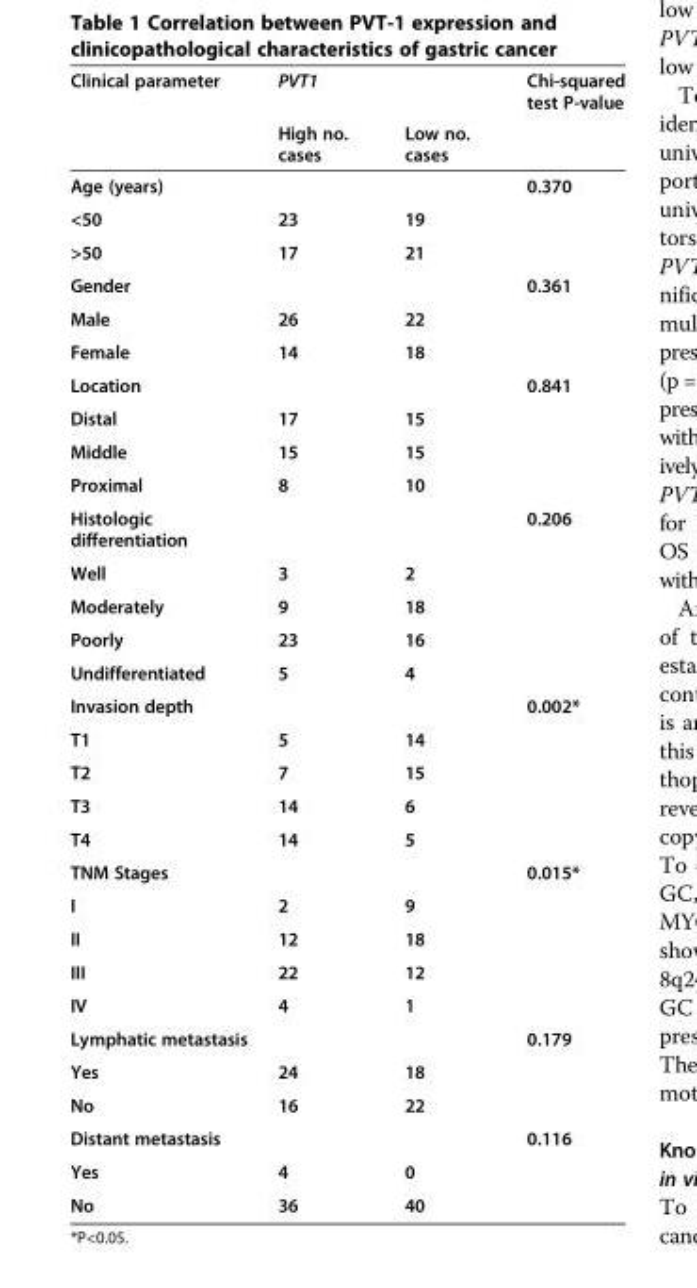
<table><thead><tr><td rowspan="2">Clinical parameter</td><td rowspan="2">PVT1 High no. cases</td><td rowspan="2">Low no. cases</td><td rowspan="2">Chi-squared test P-value</td></tr><tr></tr></thead><tbody><tr><td>Age (years)</td><td></td><td></td><td>0.370</td></tr><tr><td>&lt;50</td><td>23</td><td>19</td><td></td></tr><tr><td>&gt;50</td><td>17</td><td>21</td><td></td></tr><tr><td>Gender</td><td></td><td></td><td>0.361</td></tr><tr><td>Male</td><td>26</td><td>22</td><td></td></tr><tr><td>Female</td><td>14</td><td>18</td><td></td></tr><tr><td>Location</td><td></td><td></td><td>0.841</td></tr><tr><td>Distal</td><td>17</td><td>15</td><td></td></tr><tr><td>Middle</td><td>15</td><td>15</td><td></td></tr><tr><td>Proximal</td><td>8</td><td>10</td><td></td></tr><tr><td>Histologic differentiation</td><td></td><td></td><td>0.206</td></tr><tr><td>Well</td><td>3</td><td>2</td><td></td></tr><tr><td>Moderately</td><td>9</td><td>18</td><td></td></tr><tr><td>Poorly</td><td>23</td><td>16</td><td></td></tr><tr><td>Undifferentiated</td><td>5</td><td>4</td><td></td></tr><tr><td>Invasion depth</td><td></td><td></td><td>0.002*</td></tr><tr><td>T1</td><td>5</td><td>14</td><td></td></tr><tr><td>T2</td><td>7</td><td>15</td><td></td></tr><tr><td>T3</td><td>14</td><td>6</td><td></td></tr><tr><td>T4</td><td>14</td><td>5</td><td></td></tr><tr><td>TNM Stages</td><td></td><td></td><td>0.015*</td></tr><tr><td>I</td><td>2</td><td>9</td><td></td></tr><tr><td>II</td><td>12</td><td>18</td><td></td></tr><tr><td>III</td><td>22</td><td>12</td><td></td></tr><tr><td>IV</td><td>4</td><td>1</td><td></td></tr><tr><td>Lymphatic metastasis</td><td></td><td></td><td>0.179</td></tr><tr><td>Yes</td><td>24</td><td>18</td><td></td></tr><tr><td>No</td><td>16</td><td>22</td><td></td></tr><tr><td>Distant metastasis</td><td></td><td></td><td>0.116</td></tr><tr><td>Yes</td><td>4</td><td>0</td><td></td></tr><tr><td>No</td><td>36</td><td>40</td><td></td></tr></tbody></table>